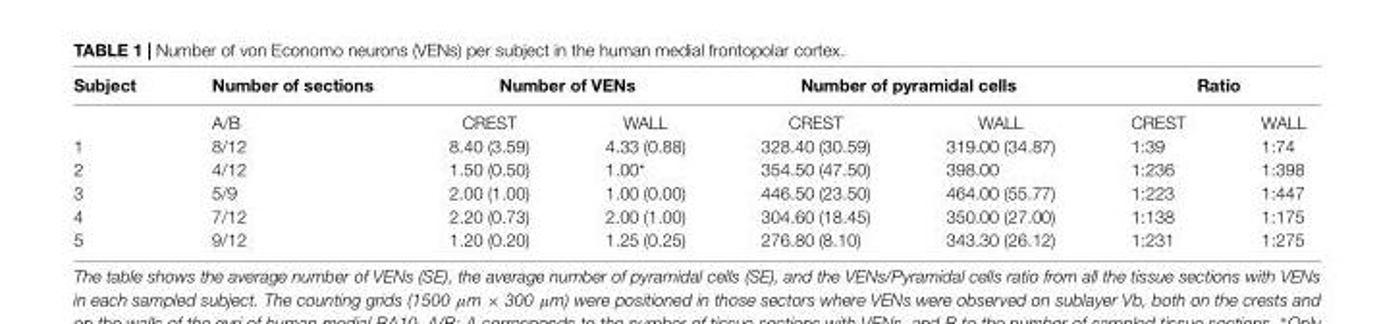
<table><thead><tr><td rowspan="2">Subject</td><td rowspan="2">Number of sections A/B</td><td colspan="2">Number of VENs</td><td colspan="2">Number of pyramidal cells</td><td colspan="2">Ratio</td></tr><tr><td>CREST</td><td>WALL</td><td>CREST</td><td>WALL</td><td>CREST</td><td>WALL</td></tr></thead><tbody><tr><td>1</td><td>8/12</td><td>8.40 (3.59)</td><td>4.33 (0.88)</td><td>328.40 (30.59)</td><td>319.00 (34.87)</td><td>1:39</td><td>1:74</td></tr><tr><td>2</td><td>4/12</td><td>1.50 (0.50)</td><td>1.00∗</td><td>354.50 (47.50)</td><td>398.00</td><td>1:236</td><td>1:398</td></tr><tr><td>3</td><td>5/9</td><td>2.00 (1.00)</td><td>1.00 (0.00)</td><td>446.50 (23.50)</td><td>464.00 (55.77)</td><td>1:223</td><td>1:447</td></tr><tr><td>4</td><td>7/12</td><td>2.20 (0.73)</td><td>2.00 (1.00)</td><td>304.60 (18.45)</td><td>350.00 (27.00)</td><td>1:138</td><td>1:175</td></tr><tr><td>5</td><td>9/12</td><td>1.20 (0.20)</td><td>1.25 (0.25)</td><td>276.80 (8.10)</td><td>343.30 (26.12)</td><td>1:231</td><td>1:275</td></tr></tbody></table>